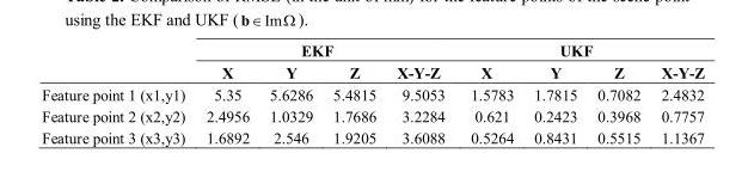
<table><thead><tr><td rowspan="2"></td><td colspan="4">EKF</td><td colspan="4">UKF</td></tr><tr><td>X</td><td>Y</td><td>Z</td><td>X-Y-Z</td><td>X</td><td>Y</td><td>Z</td><td>X-Y-Z</td></tr></thead><tbody><tr><td>Feature point 1 (x1,y1)</td><td>5.35</td><td>5.6286</td><td>5.4815</td><td>9.5053</td><td>1.5783</td><td>1.7815</td><td>0.7082</td><td>2.4832</td></tr><tr><td>Feature point 2 (x2,y2)</td><td>2.4956</td><td>1.0329</td><td>1.7686</td><td>3.2284</td><td>0.621</td><td>0.2423</td><td>0.3968</td><td>0.7757</td></tr><tr><td>Feature point 3 (x3,y3)</td><td>1.6892</td><td>2.546</td><td>1.9205</td><td>3.6088</td><td>0.5264</td><td>0.8431</td><td>0.5515</td><td>1.1367</td></tr></tbody></table>